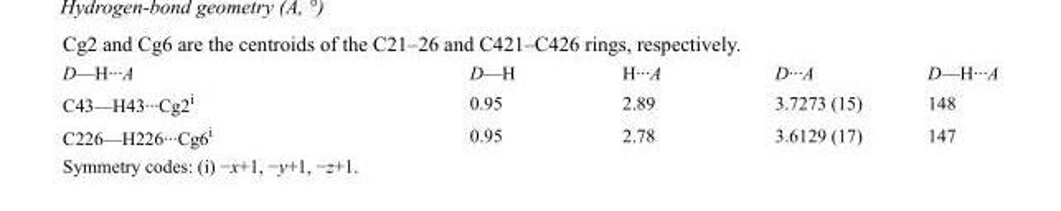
<table><tbody><tr><td>D—H···A</td><td>D—H</td><td>H···A</td><td>D···A</td><td>D—H···A</td></tr><tr><td>C43—H43···Cg2<sup>i</sup></td><td>0.95</td><td>2.89</td><td>3.7273 (15)</td><td>148</td></tr><tr><td>C226—H226···Cg6<sup>i</sup></td><td>0.95</td><td>2.78</td><td>3.6129 (17)</td><td>147</td></tr></tbody></table>